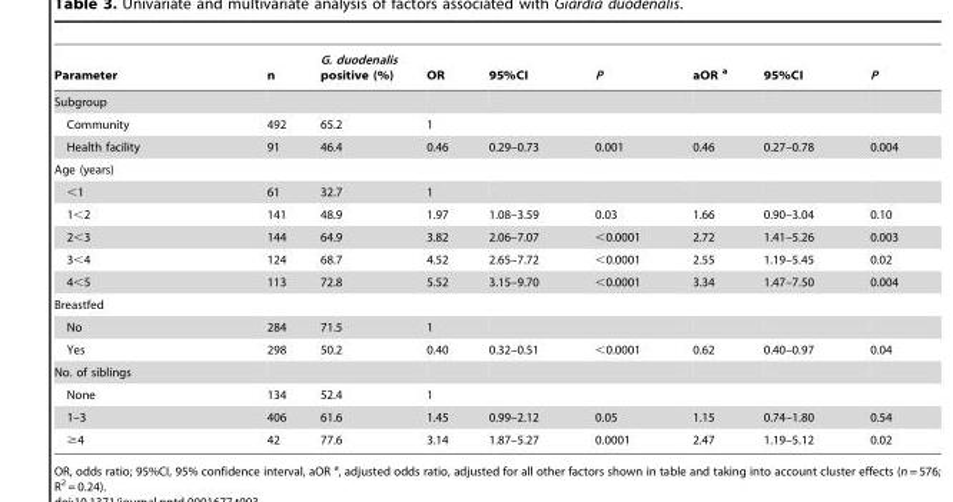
<table><thead><tr><td>Parameter</td><td>n</td><td>G. duodenalis positive (%)</td><td>OR</td><td>95%CI</td><td>P</td><td>aOR <sup>a</sup></td><td>95%CI</td><td>P</td></tr></thead><tbody><tr><td colspan="9">Subgroup</td></tr><tr><td>Community</td><td>492</td><td>65.2</td><td>1</td><td></td><td></td><td></td><td></td><td></td></tr><tr><td>Health facility</td><td>91</td><td>46.4</td><td>0.46</td><td>0.29–0.73</td><td>0.001</td><td>0.46</td><td>0.27–0.78</td><td>0.004</td></tr><tr><td colspan="9">Age (years)</td></tr><tr><td>&lt;1</td><td>61</td><td>32.7</td><td>1</td><td></td><td></td><td></td><td></td><td></td></tr><tr><td>1&lt;2</td><td>141</td><td>48.9</td><td>1.97</td><td>1.08–3.59</td><td>0.03</td><td>1.66</td><td>0.90–3.04</td><td>0.10</td></tr><tr><td>2&lt;3</td><td>144</td><td>64.9</td><td>3.82</td><td>2.06–7.07</td><td>&lt;0.0001</td><td>2.72</td><td>1.41–5.26</td><td>0.003</td></tr><tr><td>3&lt;4</td><td>124</td><td>68.7</td><td>4.52</td><td>2.65–7.72</td><td>&lt;0.0001</td><td>2.55</td><td>1.19–5.45</td><td>0.02</td></tr><tr><td>4&lt;5</td><td>113</td><td>72.8</td><td>5.52</td><td>3.15–9.70</td><td>&lt;0.0001</td><td>3.34</td><td>1.47–7.50</td><td>0.004</td></tr><tr><td colspan="9">Breastfed</td></tr><tr><td>No</td><td>284</td><td>71.5</td><td>1</td><td></td><td></td><td></td><td></td><td></td></tr><tr><td>Yes</td><td>298</td><td>50.2</td><td>0.40</td><td>0.32–0.51</td><td>&lt;0.0001</td><td>0.62</td><td>0.40–0.97</td><td>0.04</td></tr><tr><td colspan="9">No. of siblings</td></tr><tr><td>None</td><td>134</td><td>52.4</td><td>1</td><td></td><td></td><td></td><td></td><td></td></tr><tr><td>1–3</td><td>406</td><td>61.6</td><td>1.45</td><td>0.99–2.12</td><td>0.05</td><td>1.15</td><td>0.74–1.80</td><td>0.54</td></tr><tr><td>≥4</td><td>42</td><td>77.6</td><td>3.14</td><td>1.87–5.27</td><td>0.0001</td><td>2.47</td><td>1.19–5.12</td><td>0.02</td></tr></tbody></table>